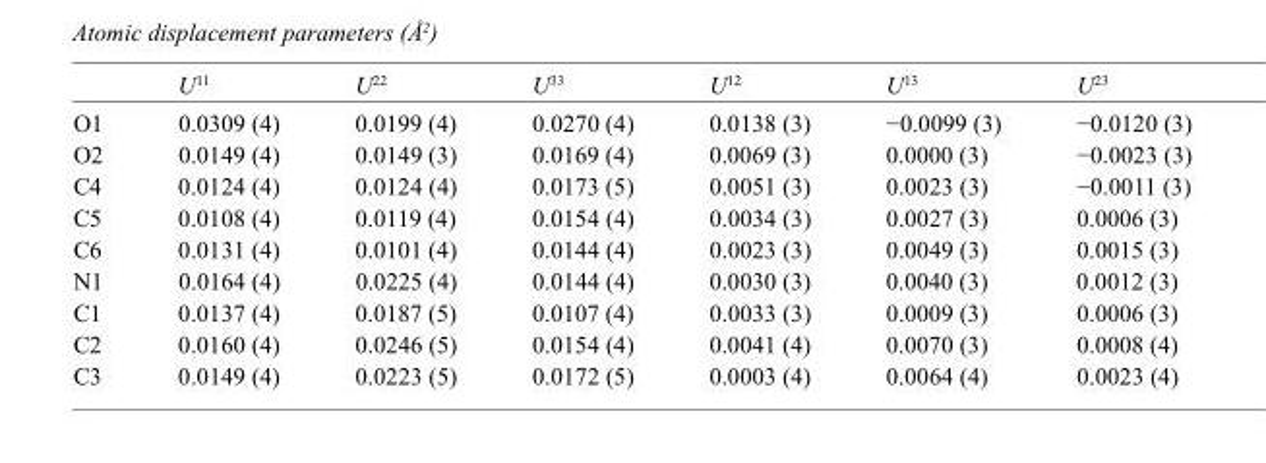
<table><thead><tr><td></td><td>U<sup>11</sup></td><td>U<sup>22</sup></td><td>U<sup>33</sup></td><td>U<sup>12</sup></td><td>U<sup>13</sup></td><td>U<sup>23</sup></td></tr></thead><tbody><tr><td>O1</td><td>0.0309 (4)</td><td>0.0199 (4)</td><td>0.0270 (4)</td><td>0.0138 (3)</td><td>−0.0099 (3)</td><td>−0.0120 (3)</td></tr><tr><td>O2</td><td>0.0149 (4)</td><td>0.0149 (3)</td><td>0.0169 (4)</td><td>0.0069 (3)</td><td>0.0000 (3)</td><td>−0.0023 (3)</td></tr><tr><td>C4</td><td>0.0124 (4)</td><td>0.0124 (4)</td><td>0.0173 (5)</td><td>0.0051 (3)</td><td>0.0023 (3)</td><td>−0.0011 (3)</td></tr><tr><td>C5</td><td>0.0108 (4)</td><td>0.0119 (4)</td><td>0.0154 (4)</td><td>0.0034 (3)</td><td>0.0027 (3)</td><td>0.0006 (3)</td></tr><tr><td>C6</td><td>0.0131 (4)</td><td>0.0101 (4)</td><td>0.0144 (4)</td><td>0.0023 (3)</td><td>0.0049 (3)</td><td>0.0015 (3)</td></tr><tr><td>N1</td><td>0.0164 (4)</td><td>0.0225 (4)</td><td>0.0144 (4)</td><td>0.0030 (3)</td><td>0.0040 (3)</td><td>0.0012 (3)</td></tr><tr><td>C1</td><td>0.0137 (4)</td><td>0.0187 (5)</td><td>0.0107 (4)</td><td>0.0033 (3)</td><td>0.0009 (3)</td><td>0.0006 (3)</td></tr><tr><td>C2</td><td>0.0160 (4)</td><td>0.0246 (5)</td><td>0.0154 (4)</td><td>0.0041 (4)</td><td>0.0070 (3)</td><td>0.0008 (4)</td></tr><tr><td>C3</td><td>0.0149 (4)</td><td>0.0223 (5)</td><td>0.0172 (5)</td><td>0.0003 (4)</td><td>0.0064 (4)</td><td>0.0023 (4)</td></tr></tbody></table>